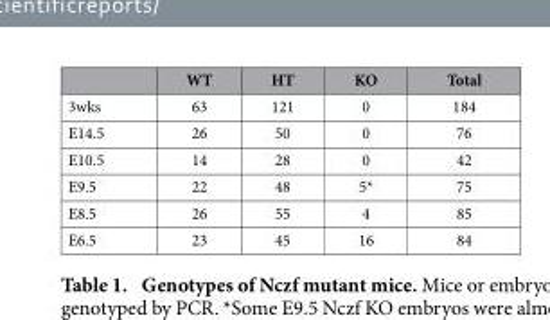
<table><thead><tr><td></td><td>WT</td><td>HT</td><td>KO</td><td>Total</td></tr></thead><tbody><tr><td>3wks</td><td>63</td><td>121</td><td>0</td><td>184</td></tr><tr><td>E14.5</td><td>26</td><td>50</td><td>0</td><td>76</td></tr><tr><td>E10.5</td><td>14</td><td>28</td><td>0</td><td>42</td></tr><tr><td>E9.5</td><td>22</td><td>48</td><td>5*</td><td>75</td></tr><tr><td>E8.5</td><td>26</td><td>55</td><td>4</td><td>85</td></tr><tr><td>E6.5</td><td>23</td><td>45</td><td>16</td><td>84</td></tr></tbody></table>